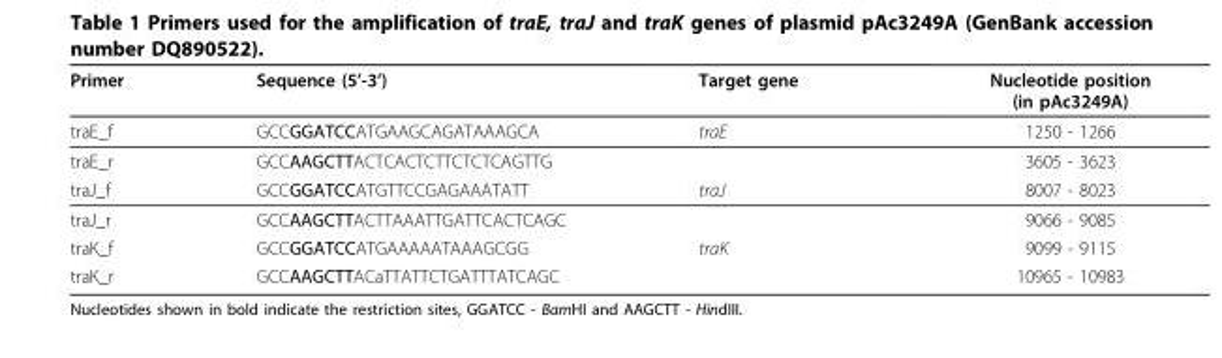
<table><thead><tr><td>Primer</td><td>Sequence (5’-3’)</td><td>Target gene</td><td>Nucleotide position (in pAc3249A)</td></tr></thead><tbody><tr><td>traE_f</td><td>GCCGGATCCATGAAGCAGATAAAGCA</td><td>traE</td><td>1250 - 1266</td></tr><tr><td>traE_r</td><td>GCCAAGCTTACTCACTCTTCTCTCAGTTG</td><td></td><td>3605 - 3623</td></tr><tr><td>traJ_f</td><td>GCCGGATCCATGTTCCGAGAAATATT</td><td>traJ</td><td>8007 - 8023</td></tr><tr><td>traJ_r</td><td>GCCAAGCTTACTTAAATTGATTCACTCAGC</td><td></td><td>9066 - 9085</td></tr><tr><td>traK_f</td><td>GCCGGATCCATGAAAAATAAAGCGG</td><td>traK</td><td>9099 - 9115</td></tr><tr><td>traK_r</td><td>GCCAAGCTTACaTTATTCTGATTTATCAGC</td><td></td><td>10965 - 10983</td></tr></tbody></table>